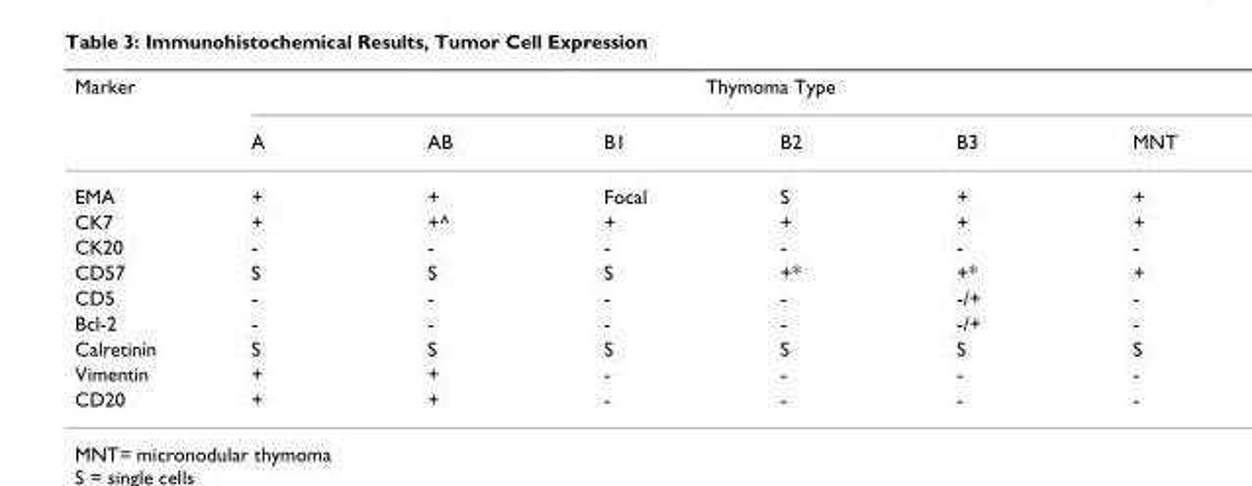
<table><thead><tr><td rowspan="2">Marker</td><td colspan="6">Thymoma Type</td></tr><tr><td>A</td><td>AB</td><td>B1</td><td>B2</td><td>B3</td><td>MNT</td></tr></thead><tbody><tr><td>EMA</td><td>+</td><td>+</td><td>Focal</td><td>S</td><td>+</td><td>+</td></tr><tr><td>CK7</td><td>+</td><td>+^</td><td>+</td><td>+</td><td>+</td><td>+</td></tr><tr><td>CK20</td><td>-</td><td>-</td><td>-</td><td>-</td><td>-</td><td>-</td></tr><tr><td>CD57</td><td>S</td><td>S</td><td>S</td><td>+*</td><td>+*</td><td>+</td></tr><tr><td>CD5</td><td>-</td><td>-</td><td>-</td><td>-</td><td>-/+</td><td>-</td></tr><tr><td>Bcl-2</td><td>-</td><td>-</td><td>-</td><td>-</td><td>-/+</td><td>-</td></tr><tr><td>Calretinin</td><td>S</td><td>S</td><td>S</td><td>S</td><td>S</td><td>S</td></tr><tr><td>Vimentin</td><td>+</td><td>+</td><td>-</td><td>-</td><td>-</td><td>-</td></tr><tr><td>CD20</td><td>+</td><td>+</td><td>-</td><td>-</td><td>-</td><td>-</td></tr></tbody></table>